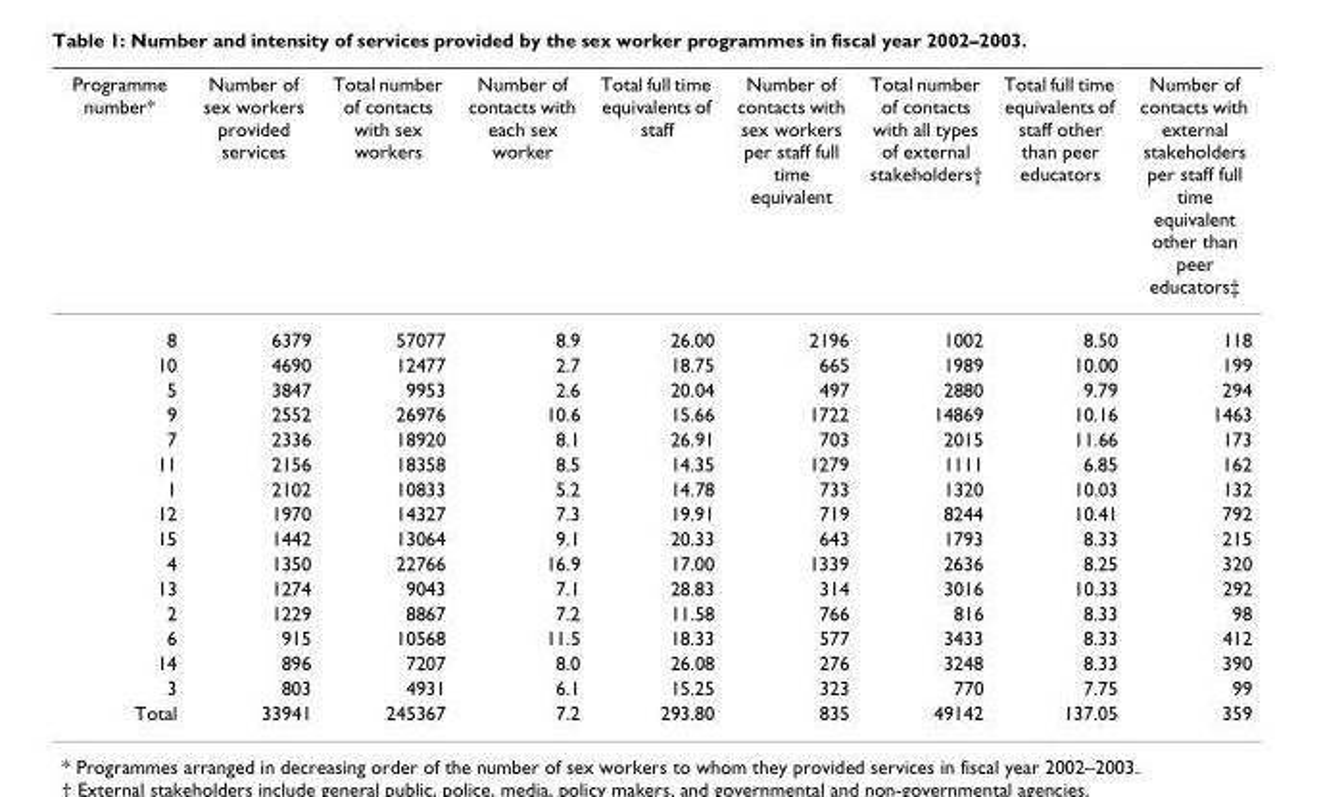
<table><thead><tr><td>Programme number*</td><td>Number of sex workers provided services</td><td>Total number of contacts with sex workers</td><td>Number of contacts with each sex worker</td><td>Total full time equivalents of staff</td><td>Number of contacts with sex workers per staff full time equivalent</td><td>Total number of contacts with all types of external stakeholders†</td><td>Total full time equivalents of staff other than peer educators</td><td>Number of contacts with external stakeholders per staff full time equivalent other than peer educators‡</td></tr></thead><tbody><tr><td>8</td><td>6379</td><td>57077</td><td>8.9</td><td>26.00</td><td>2196</td><td>1002</td><td>8.50</td><td>118</td></tr><tr><td>10</td><td>4690</td><td>12477</td><td>2.7</td><td>18.75</td><td>665</td><td>1989</td><td>10.00</td><td>199</td></tr><tr><td>5</td><td>3847</td><td>9953</td><td>2.6</td><td>20.04</td><td>497</td><td>2880</td><td>9.79</td><td>294</td></tr><tr><td>9</td><td>2552</td><td>26976</td><td>10.6</td><td>15.66</td><td>1722</td><td>14869</td><td>10.16</td><td>1463</td></tr><tr><td>7</td><td>2336</td><td>18920</td><td>8.1</td><td>26.91</td><td>703</td><td>2015</td><td>11.66</td><td>173</td></tr><tr><td>11</td><td>2156</td><td>18358</td><td>8.5</td><td>14.35</td><td>1279</td><td>1111</td><td>6.85</td><td>162</td></tr><tr><td>1</td><td>2102</td><td>10833</td><td>5.2</td><td>14.78</td><td>733</td><td>1320</td><td>10.03</td><td>132</td></tr><tr><td>12</td><td>1970</td><td>14327</td><td>7.3</td><td>19.91</td><td>719</td><td>8244</td><td>10.41</td><td>792</td></tr><tr><td>15</td><td>1442</td><td>13064</td><td>9.1</td><td>20.33</td><td>643</td><td>1793</td><td>8.33</td><td>215</td></tr><tr><td>4</td><td>1350</td><td>22766</td><td>16.9</td><td>17.00</td><td>1339</td><td>2636</td><td>8.25</td><td>320</td></tr><tr><td>13</td><td>1274</td><td>9043</td><td>7.1</td><td>28.83</td><td>314</td><td>3016</td><td>10.33</td><td>292</td></tr><tr><td>2</td><td>1229</td><td>8867</td><td>7.2</td><td>11.58</td><td>766</td><td>816</td><td>8.33</td><td>98</td></tr><tr><td>6</td><td>915</td><td>10568</td><td>11.5</td><td>18.33</td><td>577</td><td>3433</td><td>8.33</td><td>412</td></tr><tr><td>14</td><td>896</td><td>7207</td><td>8.0</td><td>26.08</td><td>276</td><td>3248</td><td>8.33</td><td>390</td></tr><tr><td>3</td><td>803</td><td>4931</td><td>6.1</td><td>15.25</td><td>323</td><td>770</td><td>7.75</td><td>99</td></tr><tr><td>Total</td><td>33941</td><td>245367</td><td>7.2</td><td>293.80</td><td>835</td><td>49142</td><td>137.05</td><td>359</td></tr></tbody></table>